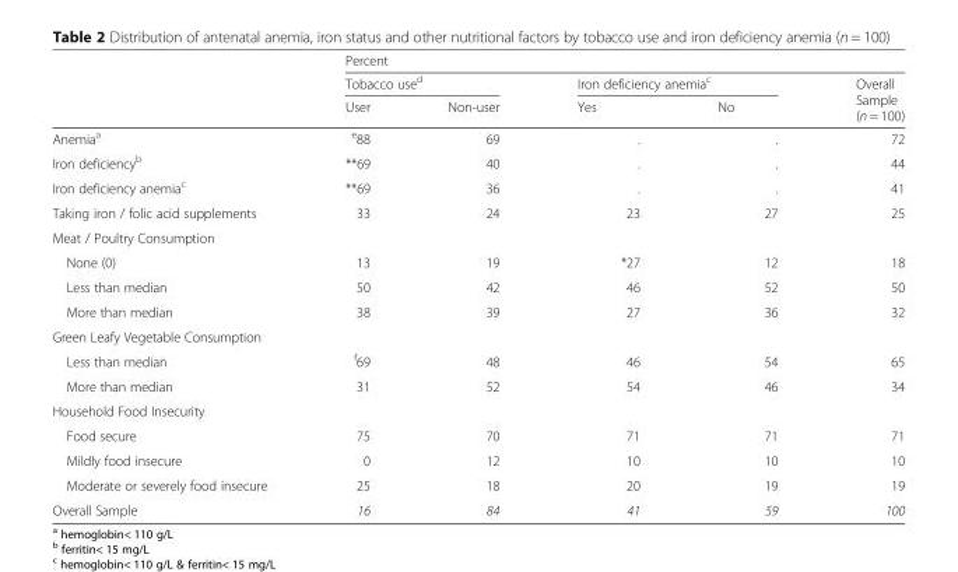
<table><thead><tr><td rowspan="3"></td><td colspan="5">Percent</td></tr><tr><td colspan="2">Tobacco use<sup>d</sup></td><td colspan="2">Iron deficiency anemia<sup>c</sup></td><td rowspan="2">Overall Sample (n = 100)</td></tr><tr><td>User</td><td>Non-user</td><td>Yes</td><td>No</td></tr></thead><tbody><tr><td>Anemia<sup>a</sup></td><td><sup>e</sup>88</td><td>69</td><td>.</td><td>.</td><td>72</td></tr><tr><td>Iron deficiency<sup>b</sup></td><td>**69</td><td>40</td><td>.</td><td>.</td><td>44</td></tr><tr><td>Iron deficiency anemia<sup>c</sup></td><td>**69</td><td>36</td><td>.</td><td>.</td><td>41</td></tr><tr><td>Taking iron / folic acid supplements</td><td>33</td><td>24</td><td>23</td><td>27</td><td>25</td></tr><tr><td colspan="6">Meat / Poultry Consumption</td></tr><tr><td>None (0)</td><td>13</td><td>19</td><td>*27</td><td>12</td><td>18</td></tr><tr><td>Less than median</td><td>50</td><td>42</td><td>46</td><td>52</td><td>50</td></tr><tr><td>More than median</td><td>38</td><td>39</td><td>27</td><td>36</td><td>32</td></tr><tr><td colspan="6">Green Leafy Vegetable Consumption</td></tr><tr><td>Less than median</td><td><sup>f</sup>69</td><td>48</td><td>46</td><td>54</td><td>65</td></tr><tr><td>More than median</td><td>31</td><td>52</td><td>54</td><td>46</td><td>34</td></tr><tr><td colspan="6">Household Food Insecurity</td></tr><tr><td>Food secure</td><td>75</td><td>70</td><td>71</td><td>71</td><td>71</td></tr><tr><td>Mildly food insecure</td><td>0</td><td>12</td><td>10</td><td>10</td><td>10</td></tr><tr><td>Moderate or severely food insecure</td><td>25</td><td>18</td><td>20</td><td>19</td><td>19</td></tr><tr><td>Overall Sample</td><td>16</td><td>84</td><td>41</td><td>59</td><td>100</td></tr></tbody></table>